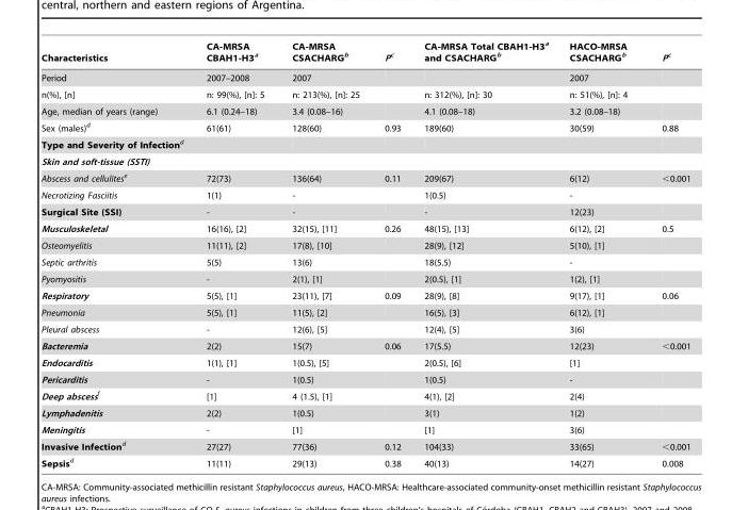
<table><thead><tr><td>Characteristics</td><td>CA-MRSA CBAH1-H3<sup>a</sup></td><td>CA-MRSA CSACHARG<sup>b</sup></td><td>Pc</td><td>CA-MRSA Total CBAH1-H3<sup>a</sup> and CSACHARG<sup>b</sup></td><td>HACO-MRSA CSACHARG<sup>b</sup></td><td>Pc</td></tr></thead><tbody><tr><td>Period</td><td>2007–2008</td><td>2007</td><td></td><td></td><td>2007</td><td></td></tr><tr><td>n(%), [n]</td><td>n: 99(%), [n]: 5</td><td>n: 213(%), [n]: 25</td><td></td><td>n: 312(%), [n]: 30</td><td>n: 51(%), [n]: 4</td><td></td></tr><tr><td>Age, median of years (range)</td><td>6.1 (0.24–18)</td><td>3.4 (0.08–16)</td><td></td><td>4.1 (0.08–18)</td><td>3.2 (0.08–18)</td><td></td></tr><tr><td>Sex (males)<sup>d</sup></td><td>61(61)</td><td>128(60)</td><td>0.93</td><td>189(60)</td><td>30(59)</td><td>0.88</td></tr><tr><td colspan="7">Type and Severity of Infectiond</td></tr><tr><td colspan="7">Skin and soft-tissue (SSTI)</td></tr><tr><td>Abscess and cellulitese</td><td>72(73)</td><td>136(64)</td><td>0.11</td><td>209(67)</td><td>6(12)</td><td>&lt;0.001</td></tr><tr><td>Necrotizing Fasciitis</td><td>1(1)</td><td>-</td><td></td><td>1(0.5)</td><td>-</td><td></td></tr><tr><td>Surgical Site (SSI)</td><td>-</td><td>-</td><td></td><td>-</td><td>12(23)</td><td></td></tr><tr><td>Musculoskeletal</td><td>16(16), [2]</td><td>32(15), [11]</td><td>0.26</td><td>48(15), [13]</td><td>6(12), [2]</td><td>0.5</td></tr><tr><td>Osteomyelitis</td><td>11(11), [2]</td><td>17(8), [10]</td><td></td><td>28(9), [12]</td><td>5(10), [1]</td><td></td></tr><tr><td>Septic arthritis</td><td>5(5)</td><td>13(6)</td><td></td><td>18(5.5)</td><td>-</td><td></td></tr><tr><td>Pyomyositis</td><td>-</td><td>2(1), [1]</td><td></td><td>2(0.5), [1]</td><td>1(2), [1]</td><td></td></tr><tr><td>Respiratory</td><td>5(5), [1]</td><td>23(11), [7]</td><td>0.09</td><td>28(9), [8]</td><td>9(17), [1]</td><td>0.06</td></tr><tr><td>Pneumonia</td><td>5(5), [1]</td><td>11(5), [2]</td><td></td><td>16(5), [3]</td><td>6(12), [1]</td><td></td></tr><tr><td>Pleural abscess</td><td>-</td><td>12(6), [5]</td><td></td><td>12(4), [5]</td><td>3(6)</td><td></td></tr><tr><td>Bacteremia</td><td>2(2)</td><td>15(7)</td><td>0.06</td><td>17(5.5)</td><td>12(23)</td><td>&lt;0.001</td></tr><tr><td>Endocarditis</td><td>1(1), [1]</td><td>1(0.5), [5]</td><td></td><td>2(0.5), [6]</td><td>[1]</td><td></td></tr><tr><td>Pericarditis</td><td>-</td><td>1(0.5)</td><td></td><td>1(0.5)</td><td>-</td><td></td></tr><tr><td>Deep abscessf</td><td>[1]</td><td>4 (1.5), [1]</td><td></td><td>4(1), [2]</td><td>2(4)</td><td></td></tr><tr><td>Lymphadenitis</td><td>2(2)</td><td>1(0.5)</td><td></td><td>3(1)</td><td>1(2)</td><td></td></tr><tr><td>Meningitis</td><td>-</td><td>[1]</td><td></td><td>[1]</td><td>3(6)</td><td></td></tr><tr><td>Invasive Infectiond</td><td>27(27)</td><td>77(36)</td><td>0.12</td><td>104(33)</td><td>33(65)</td><td>&lt;0.001</td></tr><tr><td>Sepsisd</td><td>11(11)</td><td>29(13)</td><td>0.38</td><td>40(13)</td><td>14(27)</td><td>0.008</td></tr></tbody></table>